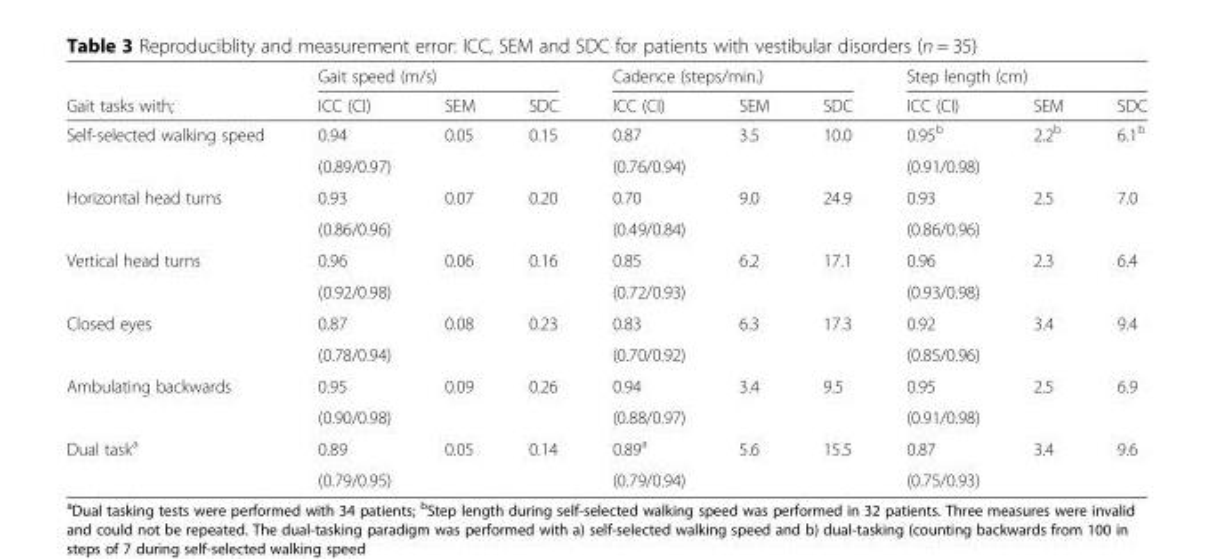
<table><thead><tr><td rowspan="2">Gait tasks with;</td><td colspan="3">Gait speed (m/s)</td><td colspan="3">Cadence (steps/min.)</td><td colspan="3">Step length (cm)</td></tr><tr><td>ICC (CI)</td><td>SEM</td><td>SDC</td><td>ICC (CI)</td><td>SEM</td><td>SDC</td><td>ICC (CI)</td><td>SEM</td><td>SDC</td></tr></thead><tbody><tr><td rowspan="2">Self-selected walking speed</td><td>0.94</td><td rowspan="2">0.05</td><td rowspan="2">0.15</td><td>0.87</td><td rowspan="2">3.5</td><td rowspan="2">10.0</td><td>0.95<sup>b</sup></td><td rowspan="2">2.2<sup>b</sup></td><td rowspan="2">6.1<sup>b</sup></td></tr><tr><td>(0.89/0.97)</td><td>(0.76/0.94)</td><td>(0.91/0.98)</td></tr><tr><td rowspan="2">Horizontal head turns</td><td>0.93</td><td rowspan="2">0.07</td><td rowspan="2">0.20</td><td>0.70</td><td rowspan="2">9.0</td><td rowspan="2">24.9</td><td>0.93</td><td rowspan="2">2.5</td><td rowspan="2">7.0</td></tr><tr><td>(0.86/0.96)</td><td>(0.49/0.84)</td><td>(0.86/0.96)</td></tr><tr><td rowspan="2">Vertical head turns</td><td>0.96</td><td rowspan="2">0.06</td><td rowspan="2">0.16</td><td>0.85</td><td rowspan="2">6.2</td><td rowspan="2">17.1</td><td>0.96</td><td rowspan="2">2.3</td><td rowspan="2">6.4</td></tr><tr><td>(0.92/0.98)</td><td>(0.72/0.93)</td><td>(0.93/0.98)</td></tr><tr><td rowspan="2">Closed eyes</td><td>0.87</td><td rowspan="2">0.08</td><td rowspan="2">0.23</td><td>0.83</td><td rowspan="2">6.3</td><td rowspan="2">17.3</td><td>0.92</td><td rowspan="2">3.4</td><td rowspan="2">9.4</td></tr><tr><td>(0.78/0.94)</td><td>(0.70/0.92)</td><td>(0.85/0.96)</td></tr><tr><td rowspan="2">Ambulating backwards</td><td>0.95</td><td rowspan="2">0.09</td><td rowspan="2">0.26</td><td>0.94</td><td rowspan="2">3.4</td><td rowspan="2">9.5</td><td>0.95</td><td rowspan="2">2.5</td><td rowspan="2">6.9</td></tr><tr><td>(0.90/0.98)</td><td>(0.88/0.97)</td><td>(0.91/0.98)</td></tr><tr><td rowspan="2">Dual task<sup>a</sup></td><td>0.89</td><td rowspan="2">0.05</td><td rowspan="2">0.14</td><td>0.89<sup>a</sup></td><td rowspan="2">5.6</td><td rowspan="2">15.5</td><td>0.87</td><td rowspan="2">3.4</td><td rowspan="2">9.6</td></tr><tr><td>(0.79/0.95)</td><td>(0.79/0.94)</td><td>(0.75/0.93)</td></tr></tbody></table>